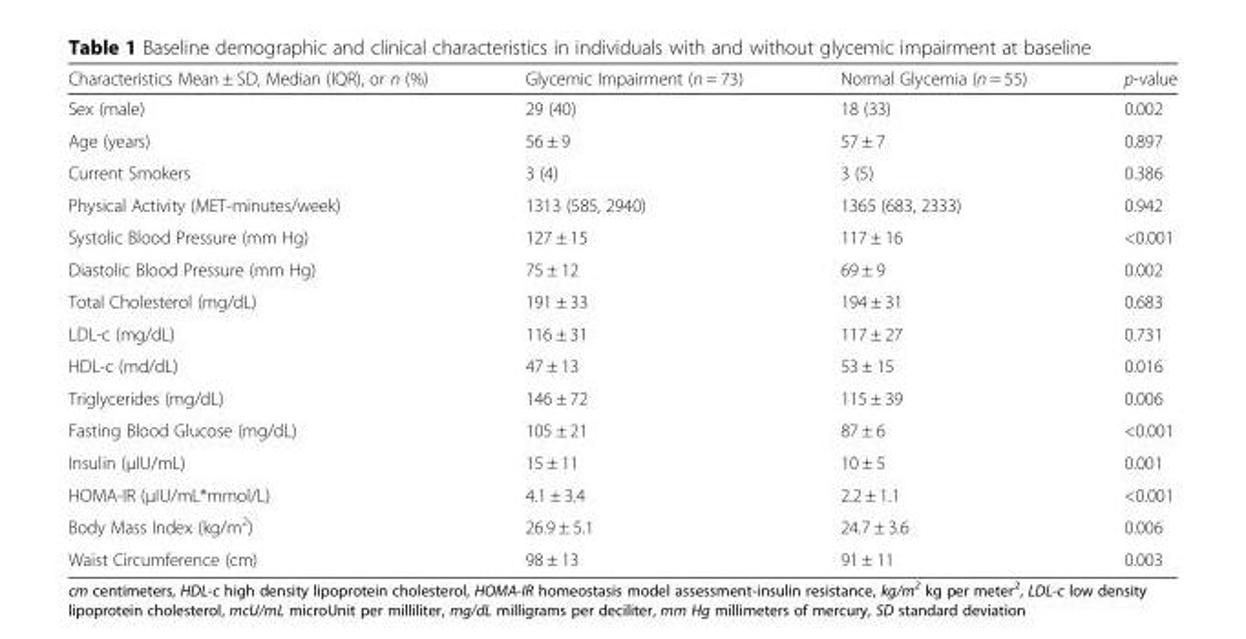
<table><thead><tr><td>Characteristics Mean ± SD, Median (IQR), or n (%)</td><td>Glycemic Impairment (n = 73)</td><td>Normal Glycemia (n = 55)</td><td>p-value</td></tr></thead><tbody><tr><td>Sex (male)</td><td>29 (40)</td><td>18 (33)</td><td>0.002</td></tr><tr><td>Age (years)</td><td>56 ± 9</td><td>57 ± 7</td><td>0.897</td></tr><tr><td>Current Smokers</td><td>3 (4)</td><td>3 (5)</td><td>0.386</td></tr><tr><td>Physical Activity (MET-minutes/week)</td><td>1313 (585, 2940)</td><td>1365 (683, 2333)</td><td>0.942</td></tr><tr><td>Systolic Blood Pressure (mm Hg)</td><td>127 ± 15</td><td>117 ± 16</td><td>&lt;0.001</td></tr><tr><td>Diastolic Blood Pressure (mm Hg)</td><td>75 ± 12</td><td>69 ± 9</td><td>0.002</td></tr><tr><td>Total Cholesterol (mg/dL)</td><td>191 ± 33</td><td>194 ± 31</td><td>0.683</td></tr><tr><td>LDL-c (mg/dL)</td><td>116 ± 31</td><td>117 ± 27</td><td>0.731</td></tr><tr><td>HDL-c (md/dL)</td><td>47 ± 13</td><td>53 ± 15</td><td>0.016</td></tr><tr><td>Triglycerides (mg/dL)</td><td>146 ± 72</td><td>115 ± 39</td><td>0.006</td></tr><tr><td>Fasting Blood Glucose (mg/dL)</td><td>105 ± 21</td><td>87 ± 6</td><td>&lt;0.001</td></tr><tr><td>Insulin (μIU/mL)</td><td>15 ± 11</td><td>10 ± 5</td><td>0.001</td></tr><tr><td>HOMA-IR (μIU/mL*mmol/L)</td><td>4.1 ± 3.4</td><td>2.2 ± 1.1</td><td>&lt;0.001</td></tr><tr><td>Body Mass Index (kg/m<sup>2</sup>)</td><td>26.9 ± 5.1</td><td>24.7 ± 3.6</td><td>0.006</td></tr><tr><td>Waist Circumference (cm)</td><td>98 ± 13</td><td>91 ± 11</td><td>0.003</td></tr></tbody></table>